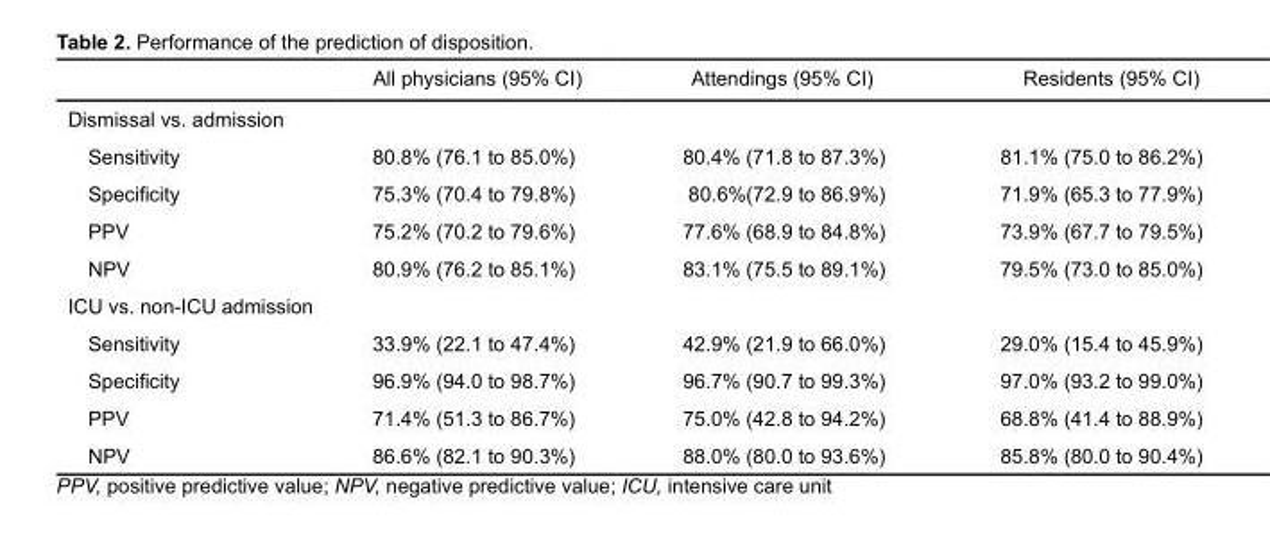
<table><thead><tr><td></td><td>All physicians (95% CI)</td><td>Attendings (95% CI)</td><td>Residents (95% CI)</td></tr></thead><tbody><tr><td colspan="4">Dismissal vs. admission</td></tr><tr><td>Sensitivity</td><td>80.8% (76.1 to 85.0%)</td><td>80.4% (71.8 to 87.3%)</td><td>81.1% (75.0 to 86.2%)</td></tr><tr><td>Specificity</td><td>75.3% (70.4 to 79.8%)</td><td>80.6%(72.9 to 86.9%)</td><td>71.9% (65.3 to 77.9%)</td></tr><tr><td>PPV</td><td>75.2% (70.2 to 79.6%)</td><td>77.6% (68.9 to 84.8%)</td><td>73.9% (67.7 to 79.5%)</td></tr><tr><td>NPV</td><td>80.9% (76.2 to 85.1%)</td><td>83.1% (75.5 to 89.1%)</td><td>79.5% (73.0 to 85.0%)</td></tr><tr><td colspan="4">ICU vs. non-ICU admission</td></tr><tr><td>Sensitivity</td><td>33.9% (22.1 to 47.4%)</td><td>42.9% (21.9 to 66.0%)</td><td>29.0% (15.4 to 45.9%)</td></tr><tr><td>Specificity</td><td>96.9% (94.0 to 98.7%)</td><td>96.7% (90.7 to 99.3%)</td><td>97.0% (93.2 to 99.0%)</td></tr><tr><td>PPV</td><td>71.4% (51.3 to 86.7%)</td><td>75.0% (42.8 to 94.2%)</td><td>68.8% (41.4 to 88.9%)</td></tr><tr><td>NPV</td><td>86.6% (82.1 to 90.3%)</td><td>88.0% (80.0 to 93.6%)</td><td>85.8% (80.0 to 90.4%)</td></tr></tbody></table>